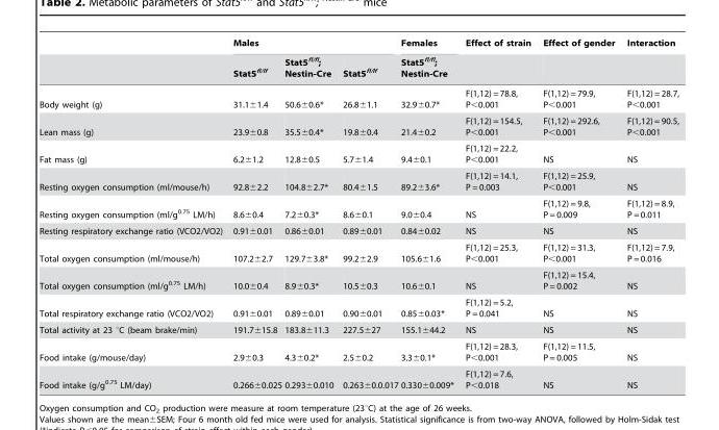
<table><thead><tr><td rowspan="2"></td><td colspan="3">Males</td><td rowspan="2">Females Stat5<sup>fl/fl</sup>; Nestin-Cre</td><td rowspan="2">Effect of strain</td><td rowspan="2">Effect of gender</td><td rowspan="2">Interaction</td></tr><tr><td>Stat5<sup>fl/lf</sup></td><td>Stat5<sup>fl/fl</sup>; Nestin-Cre</td><td>Stat5<sup>fl/lf</sup></td></tr></thead><tbody><tr><td>Body weight (g)</td><td>31.1±1.4</td><td>50.6±0.6*</td><td>26.8±1.1</td><td>32.9±0.7*</td><td>F(1,12) = 78.8, P&lt;0.001</td><td>F(1,12) = 79.9, P&lt;0.001</td><td>F(1,12) = 28.7, P&lt;0.001</td></tr><tr><td>Lean mass (g)</td><td>23.9±0.8</td><td>35.5±0.4*</td><td>19.8±0.4</td><td>21.4±0.2</td><td>F(1,12) = 154.5, P&lt;0.001</td><td>F(1,12) = 292.6, P&lt;0.001</td><td>F(1,12) = 90.5, P&lt;0.001</td></tr><tr><td>Fat mass (g)</td><td>6.2±1.2</td><td>12.8±0.5</td><td>5.7±1.4</td><td>9.4±0.1</td><td>F(1,12) = 22.2, P&lt;0.001</td><td>NS</td><td>NS</td></tr><tr><td>Resting oxygen consumption (ml/mouse/h)</td><td>92.8±2.2</td><td>104.8±2.7*</td><td>80.4±1.5</td><td>89.2±3.6*</td><td>F(1,12) = 14.1, P = 0.003</td><td>F(1,12) = 25.9, P&lt;0.001</td><td>NS</td></tr><tr><td>Resting oxygen consumption (ml/g<sup>0.75</sup> LM/h)</td><td>8.6±0.4</td><td>7.2±0.3*</td><td>8.6±0.1</td><td>9.0±0.4</td><td>NS</td><td>F(1,12) = 9.8, P = 0.009</td><td>F(1,12) = 8.9, P = 0.011</td></tr><tr><td>Resting respiratory exchange ratio (VCO2/VO2)</td><td>0.91±0.01</td><td>0.86±0.01</td><td>0.89±0.01</td><td>0.84±0.02</td><td>NS</td><td>NS</td><td>NS</td></tr><tr><td>Total oxygen consumption (ml/mouse/h)</td><td>107.2±2.7</td><td>129.7±3.8*</td><td>99.2±2.9</td><td>105.6±1.6</td><td>F(1,12) = 25.3, P&lt;0.001</td><td>F(1,12) = 31.3, P&lt;0.001</td><td>F(1,12) = 7.9, P = 0.016</td></tr><tr><td>Total oxygen consumption (ml/g<sup>0.75</sup> LM/h)</td><td>10.0±0.4</td><td>8.9±0.3*</td><td>10.5±0.3</td><td>10.6±0.1</td><td>NS</td><td>F(1,12) = 15.4, P = 0.002</td><td>NS</td></tr><tr><td>Total respiratory exchange ratio (VCO2/VO2)</td><td>0.91±0.01</td><td>0.89±0.01</td><td>0.90±0.01</td><td>0.85±0.03*</td><td>F(1,12) = 5.2, P = 0.041</td><td>NS</td><td>NS</td></tr><tr><td>Total activity at 23 °C (beam brake/min)</td><td>191.7±15.8</td><td>183.8±11.3</td><td>227.5±27</td><td>155.1±44.2</td><td>NS</td><td>NS</td><td>NS</td></tr><tr><td>Food intake (g/mouse/day)</td><td>2.9±0.3</td><td>4.3±0.2*</td><td>2.5±0.2</td><td>3.3±0.1*</td><td>F(1,12) = 28.3, P&lt;0.001</td><td>F(1,12) = 11.5, P = 0.005</td><td>NS</td></tr><tr><td>Food intake (g/g<sup>0.75</sup> LM/day)</td><td>0.266±0.025</td><td>0.293±0.010</td><td>0.263±0.0.017</td><td>0.330±0.009*</td><td>F(1,12) = 7.6, P&lt;0.018</td><td>NS</td><td>NS</td></tr></tbody></table>